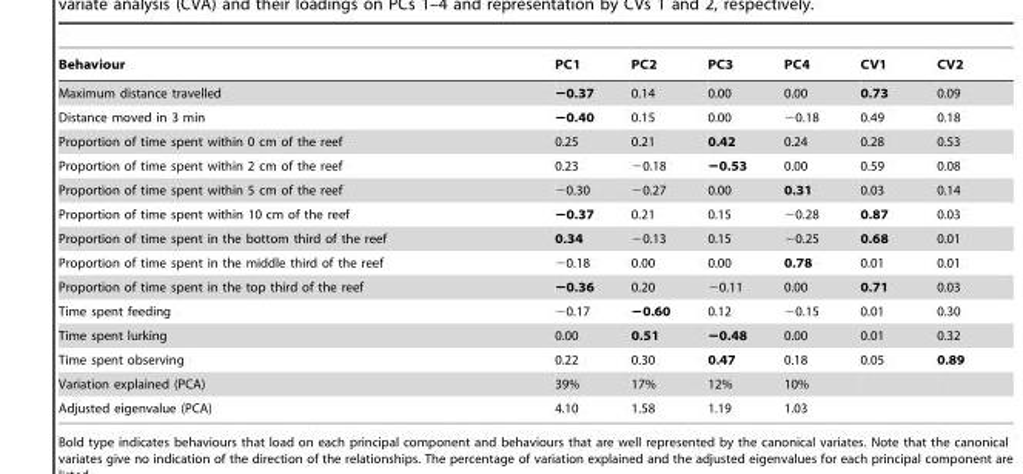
<table><thead><tr><td>Behaviour</td><td>PC1</td><td>PC2</td><td>PC3</td><td>PC4</td><td>CV1</td><td>CV2</td></tr></thead><tbody><tr><td>Maximum distance travelled</td><td>−0.37</td><td>0.14</td><td>0.00</td><td>0.00</td><td>0.73</td><td>0.09</td></tr><tr><td>Distance moved in 3 min</td><td>−0.40</td><td>0.15</td><td>0.00</td><td>−0.18</td><td>0.49</td><td>0.18</td></tr><tr><td>Proportion of time spent within 0 cm of the reef</td><td>0.25</td><td>0.21</td><td>0.42</td><td>0.24</td><td>0.28</td><td>0.53</td></tr><tr><td>Proportion of time spent within 2 cm of the reef</td><td>0.23</td><td>−0.18</td><td>−0.53</td><td>0.00</td><td>0.59</td><td>0.08</td></tr><tr><td>Proportion of time spent within 5 cm of the reef</td><td>−0.30</td><td>−0.27</td><td>0.00</td><td>0.31</td><td>0.03</td><td>0.14</td></tr><tr><td>Proportion of time spent within 10 cm of the reef</td><td>−0.37</td><td>0.21</td><td>0.15</td><td>−0.28</td><td>0.87</td><td>0.03</td></tr><tr><td>Proportion of time spent in the bottom third of the reef</td><td>0.34</td><td>−0.13</td><td>0.15</td><td>−0.25</td><td>0.68</td><td>0.01</td></tr><tr><td>Proportion of time spent in the middle third of the reef</td><td>−0.18</td><td>0.00</td><td>0.00</td><td>0.78</td><td>0.01</td><td>0.01</td></tr><tr><td>Proportion of time spent in the top third of the reef</td><td>−0.36</td><td>0.20</td><td>−0.11</td><td>0.00</td><td>0.71</td><td>0.03</td></tr><tr><td>Time spent feeding</td><td>−0.17</td><td>−0.60</td><td>0.12</td><td>−0.15</td><td>0.01</td><td>0.30</td></tr><tr><td>Time spent lurking</td><td>0.00</td><td>0.51</td><td>−0.48</td><td>0.00</td><td>0.01</td><td>0.32</td></tr><tr><td>Time spent observing</td><td>0.22</td><td>0.30</td><td>0.47</td><td>0.18</td><td>0.05</td><td>0.89</td></tr><tr><td>Variation explained (PCA)</td><td>39%</td><td>17%</td><td>12%</td><td>10%</td><td></td><td></td></tr><tr><td>Adjusted eigenvalue (PCA)</td><td>4.10</td><td>1.58</td><td>1.19</td><td>1.03</td><td></td><td></td></tr></tbody></table>